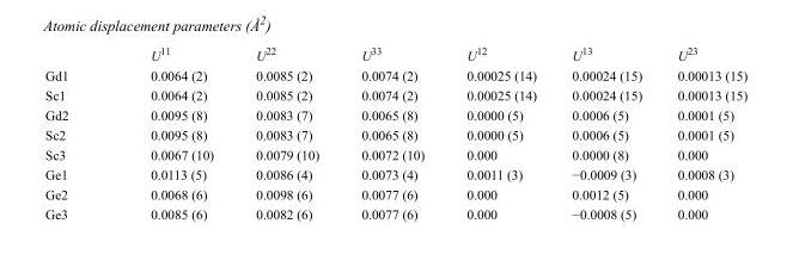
<table><thead><tr><td></td><td>U<sup>11</sup></td><td>U<sup>22</sup></td><td>U<sup>33</sup></td><td>U<sup>12</sup></td><td>U<sup>13</sup></td><td>U<sup>23</sup></td></tr></thead><tbody><tr><td>Gd1</td><td>0.0064 (2)</td><td>0.0085 (2)</td><td>0.0074 (2)</td><td>0.00025 (14)</td><td>0.00024 (15)</td><td>0.00013 (15)</td></tr><tr><td>Sc1</td><td>0.0064 (2)</td><td>0.0085 (2)</td><td>0.0074 (2)</td><td>0.00025 (14)</td><td>0.00024 (15)</td><td>0.00013 (15)</td></tr><tr><td>Gd2</td><td>0.0095 (8)</td><td>0.0083 (7)</td><td>0.0065 (8)</td><td>0.0000 (5)</td><td>0.0006 (5)</td><td>0.0001 (5)</td></tr><tr><td>Sc2</td><td>0.0095 (8)</td><td>0.0083 (7)</td><td>0.0065 (8)</td><td>0.0000 (5)</td><td>0.0006 (5)</td><td>0.0001 (5)</td></tr><tr><td>Sc3</td><td>0.0067 (10)</td><td>0.0079 (10)</td><td>0.0072 (10)</td><td>0.000</td><td>0.0000 (8)</td><td>0.000</td></tr><tr><td>Ge1</td><td>0.0113 (5)</td><td>0.0086 (4)</td><td>0.0073 (4)</td><td>0.0011 (3)</td><td>−0.0009 (3)</td><td>0.0008 (3)</td></tr><tr><td>Ge2</td><td>0.0068 (6)</td><td>0.0098 (6)</td><td>0.0077 (6)</td><td>0.000</td><td>0.0012 (5)</td><td>0.000</td></tr><tr><td>Ge3</td><td>0.0085 (6)</td><td>0.0082 (6)</td><td>0.0077 (6)</td><td>0.000</td><td>−0.0008 (5)</td><td>0.000</td></tr></tbody></table>